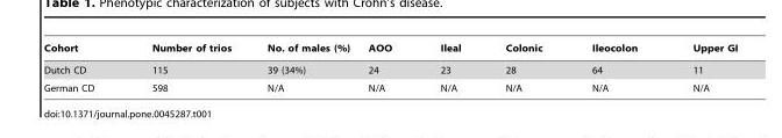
<table><thead><tr><td>Cohort</td><td>Number of trios</td><td>No. of males (%)</td><td>AOO</td><td>Ileal</td><td>Colonic</td><td>Ileocolon</td><td>Upper GI</td></tr></thead><tbody><tr><td>Dutch CD</td><td>115</td><td>39 (34%)</td><td>24</td><td>23</td><td>28</td><td>64</td><td>11</td></tr><tr><td>German CD</td><td>598</td><td>N/A</td><td>N/A</td><td>N/A</td><td>N/A</td><td>N/A</td><td>N/A</td></tr></tbody></table>